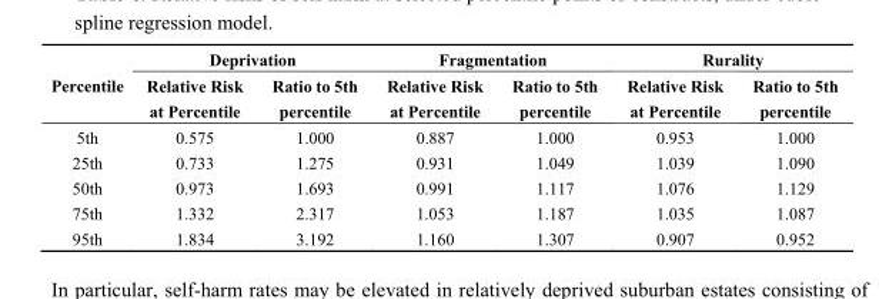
<table><thead><tr><td rowspan="2">Percentile</td><td colspan="2">Deprivation</td><td colspan="2">Fragmentation</td><td colspan="2">Rurality</td></tr><tr><td>Relative Risk at Percentile</td><td>Ratio to 5th percentile</td><td>Relative Risk at Percentile</td><td>Ratio to 5th percentile</td><td>Relative Risk at Percentile</td><td>Ratio to 5th percentile</td></tr></thead><tbody><tr><td>5th</td><td>0.575</td><td>1.000</td><td>0.887</td><td>1.000</td><td>0.953</td><td>1.000</td></tr><tr><td>25th</td><td>0.733</td><td>1.275</td><td>0.931</td><td>1.049</td><td>1.039</td><td>1.090</td></tr><tr><td>50th</td><td>0.973</td><td>1.693</td><td>0.991</td><td>1.117</td><td>1.076</td><td>1.129</td></tr><tr><td>75th</td><td>1.332</td><td>2.317</td><td>1.053</td><td>1.187</td><td>1.035</td><td>1.087</td></tr><tr><td>95th</td><td>1.834</td><td>3.192</td><td>1.160</td><td>1.307</td><td>0.907</td><td>0.952</td></tr></tbody></table>